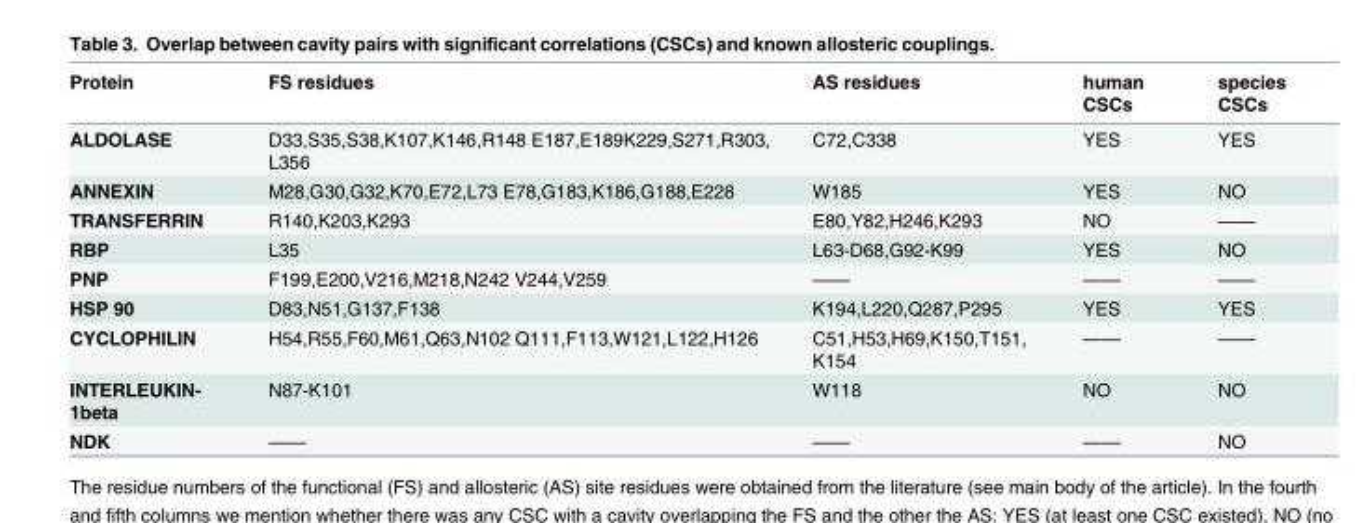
<table><thead><tr><td>Protein</td><td>FS residues</td><td>AS residues</td><td>human CSCs</td><td>species CSCs</td></tr></thead><tbody><tr><td>ALDOLASE</td><td>D33,S35,S38,K107,K146,R148 E187,E189K229,S271,R303, L356</td><td>C72,C338</td><td>YES</td><td>YES</td></tr><tr><td>ANNEXIN</td><td>M28,G30,G32,K70,E72,L73 E78,G183,K186,G188,E228</td><td>W185</td><td>YES</td><td>NO</td></tr><tr><td>TRANSFERRIN</td><td>R140,K203,K293</td><td>E80,Y82,H246,K293</td><td>NO</td><td>——</td></tr><tr><td>RBP</td><td>L35</td><td>L63-D68,G92-K99</td><td>YES</td><td>NO</td></tr><tr><td>PNP</td><td>F199,E200,V216,M218,N242 V244,V259</td><td>——</td><td>——</td><td>——</td></tr><tr><td>HSP 90</td><td>D83,N51,G137,F138</td><td>K194,L220,Q287,P295</td><td>YES</td><td>YES</td></tr><tr><td>CYCLOPHILIN</td><td>H54,R55,F60,M61,Q63,N102 Q111,F113,W121,L122,H126</td><td>C51,H53,H69,K150,T151, K154</td><td>——</td><td>——</td></tr><tr><td>INTERLEUKIN- 1beta</td><td>N87-K101</td><td>W118</td><td>NO</td><td>NO</td></tr><tr><td>NDK</td><td>——</td><td>——</td><td>——</td><td>NO</td></tr></tbody></table>